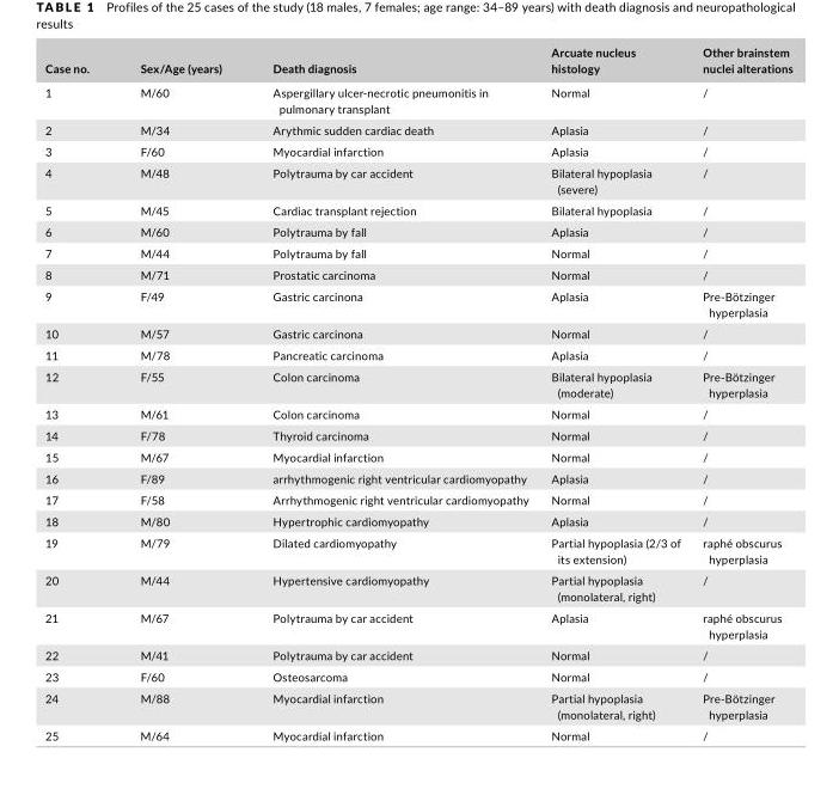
<table><thead><tr><td>Case no.</td><td>Sex/Age (years)</td><td>Death diagnosis</td><td>Arcuate nucleus histology</td><td>Other brainstem nuclei alterations</td></tr></thead><tbody><tr><td>1</td><td>M/60</td><td>Aspergillary ulcer‐necrotic pneumonitis in pulmonary transplant</td><td>Normal</td><td>/</td></tr><tr><td>2</td><td>M/34</td><td>Arythmic sudden cardiac death</td><td>Aplasia</td><td>/</td></tr><tr><td>3</td><td>F/60</td><td>Myocardial infarction</td><td>Aplasia</td><td>/</td></tr><tr><td>4</td><td>M/48</td><td>Polytrauma by car accident</td><td>Bilateral hypoplasia (severe)</td><td>/</td></tr><tr><td>5</td><td>M/45</td><td>Cardiac transplant rejection</td><td>Bilateral hypoplasia</td><td>/</td></tr><tr><td>6</td><td>M/60</td><td>Polytrauma by fall</td><td>Aplasia</td><td>/</td></tr><tr><td>7</td><td>M/44</td><td>Polytrauma by fall</td><td>Normal</td><td>/</td></tr><tr><td>8</td><td>M/71</td><td>Prostatic carcinoma</td><td>Normal</td><td>/</td></tr><tr><td>9</td><td>F/49</td><td>Gastric carcinona</td><td>Aplasia</td><td>Pre‐Bötzinger hyperplasia</td></tr><tr><td>10</td><td>M/57</td><td>Gastric carcinona</td><td>Normal</td><td>/</td></tr><tr><td>11</td><td>M/78</td><td>Pancreatic carcinoma</td><td>Aplasia</td><td>/</td></tr><tr><td>12</td><td>F/55</td><td>Colon carcinoma</td><td>Bilateral hypoplasia (moderate)</td><td>Pre‐Bötzinger hyperplasia</td></tr><tr><td>13</td><td>M/61</td><td>Colon carcinoma</td><td>Normal</td><td>/</td></tr><tr><td>14</td><td>F/78</td><td>Thyroid carcinoma</td><td>Normal</td><td>/</td></tr><tr><td>15</td><td>M/67</td><td>Myocardial infarction</td><td>Normal</td><td>/</td></tr><tr><td>16</td><td>F/89</td><td>arrhythmogenic right ventricular cardiomyopathy</td><td>Aplasia</td><td>/</td></tr><tr><td>17</td><td>F/58</td><td>Arrhythmogenic right ventricular cardiomyopathy</td><td>Normal</td><td>/</td></tr><tr><td>18</td><td>M/80</td><td>Hypertrophic cardiomyopathy</td><td>Aplasia</td><td>/</td></tr><tr><td>19</td><td>M/79</td><td>Dilated cardiomyopathy</td><td>Partial hypoplasia (2/3 of its extension)</td><td>raphé obscurus hyperplasia</td></tr><tr><td>20</td><td>M/44</td><td>Hypertensive cardiomyopathy</td><td>Partial hypoplasia (monolateral, right)</td><td>/</td></tr><tr><td>21</td><td>M/67</td><td>Polytrauma by car accident</td><td>Aplasia</td><td>raphé obscurus hyperplasia</td></tr><tr><td>22</td><td>M/41</td><td>Polytrauma by car accident</td><td>Normal</td><td>/</td></tr><tr><td>23</td><td>F/60</td><td>Osteosarcoma</td><td>Normal</td><td>/</td></tr><tr><td>24</td><td>M/88</td><td>Myocardial infarction</td><td>Partial hypoplasia (monolateral, right)</td><td>Pre‐Bötzinger hyperplasia</td></tr><tr><td>25</td><td>M/64</td><td>Myocardial infarction</td><td>Normal</td><td>/</td></tr></tbody></table>